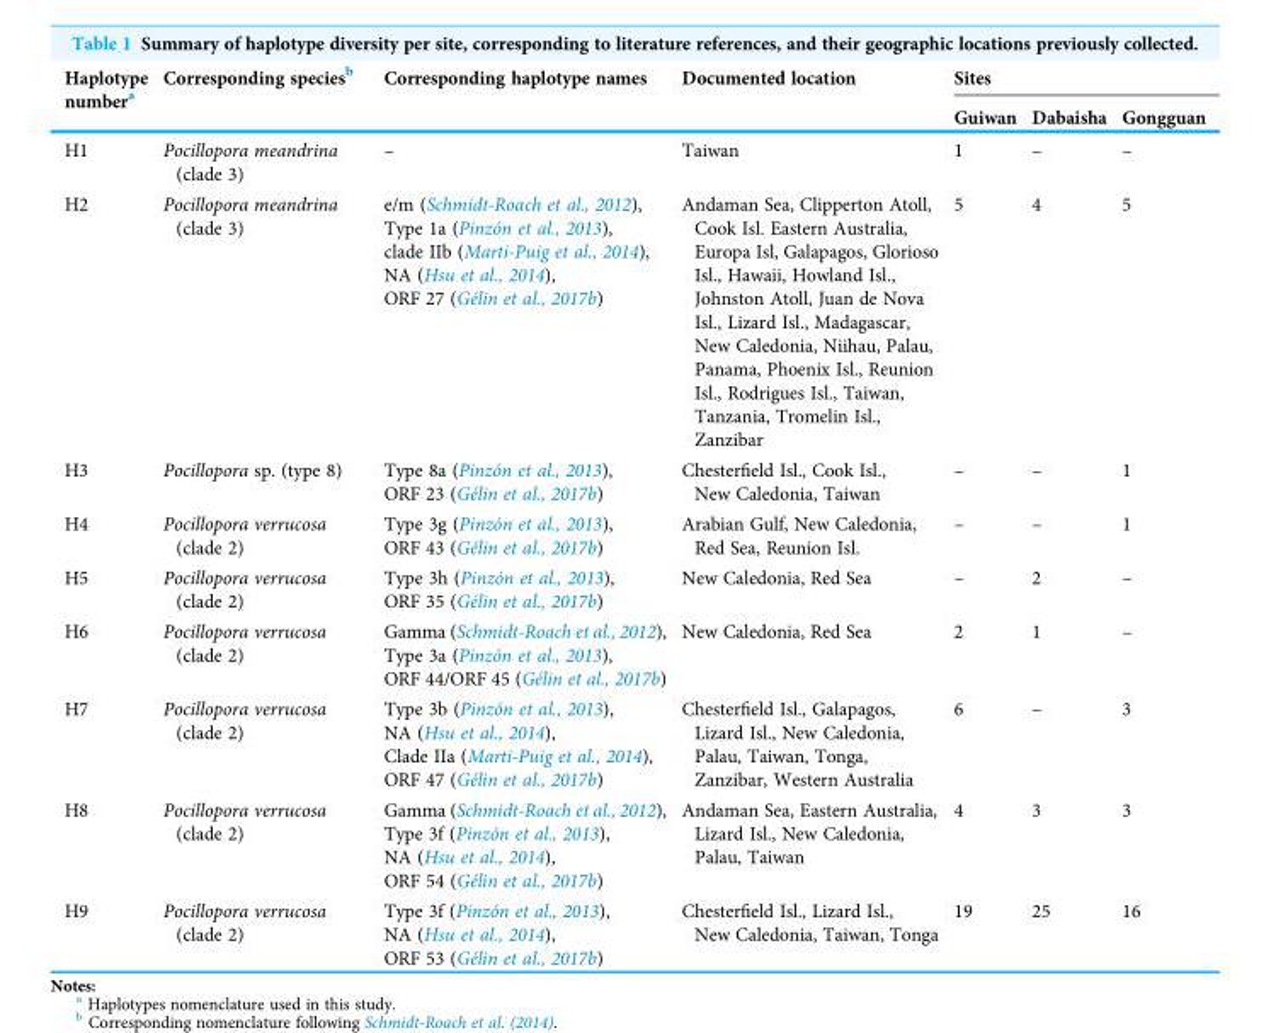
<table><thead><tr><td rowspan="2">Haplotype number<sup>a</sup></td><td rowspan="2">Corresponding species<sup>b</sup></td><td rowspan="2">Corresponding haplotype names</td><td rowspan="2">Documented location</td><td colspan="3">Sites</td></tr><tr><td>Guiwan</td><td>Dabaisha</td><td>Gongguan</td></tr></thead><tbody><tr><td>H1</td><td>Pocillopora meandrina (clade 3)</td><td>–</td><td>Taiwan</td><td>1</td><td>–</td><td>–</td></tr><tr><td>H2</td><td>Pocillopora meandrina (clade 3)</td><td>e/m (Schmidt-Roach et al., 2012), Type 1a (Pinzón et al., 2013), clade IIb (Marti-Puig et al., 2014), NA (Hsu et al., 2014), ORF 27 (Gélin et al., 2017b)</td><td>Andaman Sea, Clipperton Atoll, Cook Isl. Eastern Australia, Europa Isl, Galapagos, Glorioso Isl., Hawaii, Howland Isl., Johnston Atoll, Juan de Nova Isl., Lizard Isl., Madagascar, New Caledonia, Niihau, Palau, Panama, Phoenix Isl., Reunion Isl., Rodrigues Isl., Taiwan, Tanzania, Tromelin Isl., Zanzibar</td><td>5</td><td>4</td><td>5</td></tr><tr><td>H3</td><td>Pocillopora sp. (type 8)</td><td>Type 8a (Pinzón et al., 2013), ORF 23 (Gélin et al., 2017b)</td><td>Chesterfield Isl., Cook Isl., New Caledonia, Taiwan</td><td>–</td><td>–</td><td>1</td></tr><tr><td>H4</td><td>Pocillopora verrucosa (clade 2)</td><td>Type 3g (Pinzón et al., 2013), ORF 43 (Gélin et al., 2017b)</td><td>Arabian Gulf, New Caledonia, Red Sea, Reunion Isl.</td><td>–</td><td>–</td><td>1</td></tr><tr><td>H5</td><td>Pocillopora verrucosa (clade 2)</td><td>Type 3h (Pinzón et al., 2013), ORF 35 (Gélin et al., 2017b)</td><td>New Caledonia, Red Sea</td><td>–</td><td>2</td><td>–</td></tr><tr><td>H6</td><td>Pocillopora verrucosa (clade 2)</td><td>Gamma (Schmidt-Roach et al., 2012), Type 3a (Pinzón et al., 2013), ORF 44/ORF 45 (Gélin et al., 2017b)</td><td>New Caledonia, Red Sea</td><td>2</td><td>1</td><td>–</td></tr><tr><td>H7</td><td>Pocillopora verrucosa (clade 2)</td><td>Type 3b (Pinzón et al., 2013), NA (Hsu et al., 2014), Clade IIa (Marti-Puig et al., 2014), ORF 47 (Gélin et al., 2017b)</td><td>Chesterfield Isl., Galapagos, Lizard Isl., New Caledonia, Palau, Taiwan, Tonga, Zanzibar, Western Australia</td><td>6</td><td>–</td><td>3</td></tr><tr><td>H8</td><td>Pocillopora verrucosa (clade 2)</td><td>Gamma (Schmidt-Roach et al., 2012), Type 3f (Pinzón et al., 2013), NA (Hsu et al., 2014), ORF 54 (Gélin et al., 2017b)</td><td>Andaman Sea, Eastern Australia, Lizard Isl., New Caledonia, Palau, Taiwan</td><td>4</td><td>3</td><td>3</td></tr><tr><td>H9</td><td>Pocillopora verrucosa (clade 2)</td><td>Type 3f (Pinzón et al., 2013), NA (Hsu et al., 2014), ORF 53 (Gélin et al., 2017b)</td><td>Chesterfield Isl., Lizard Isl., New Caledonia, Taiwan, Tonga</td><td>19</td><td>25</td><td>16</td></tr></tbody></table>